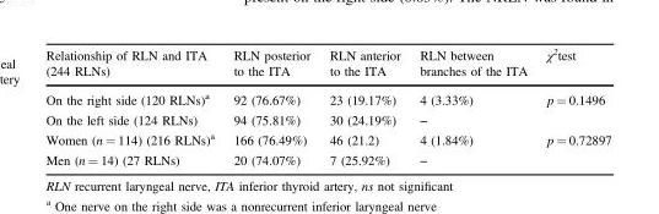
<table><thead><tr><td>Relationship of RLN and ITA (244 RLNs)</td><td>RLN posterior to the ITA</td><td>RLN anterior to the ITA</td><td>RLN between branches of the ITA</td><td>χ<sup>2</sup>test</td></tr></thead><tbody><tr><td>On the right side (120 RLNs)<sup>a</sup></td><td>92 (76.67%)</td><td>23 (19.17%)</td><td>4 (3.33%)</td><td>p = 0.1496</td></tr><tr><td>On the left side (124 RLNs)</td><td>94 (75.81%)</td><td>30 (24.19%)</td><td>–</td><td></td></tr><tr><td>Women (n = 114) (216 RLNs)<sup>a</sup></td><td>166 (76.49%)</td><td>46 (21.2)</td><td>4 (1.84%)</td><td>p = 0.72897</td></tr><tr><td>Men (n = 14) (27 RLNs)</td><td>20 (74.07%)</td><td>7 (25.92%)</td><td>–</td><td></td></tr></tbody></table>